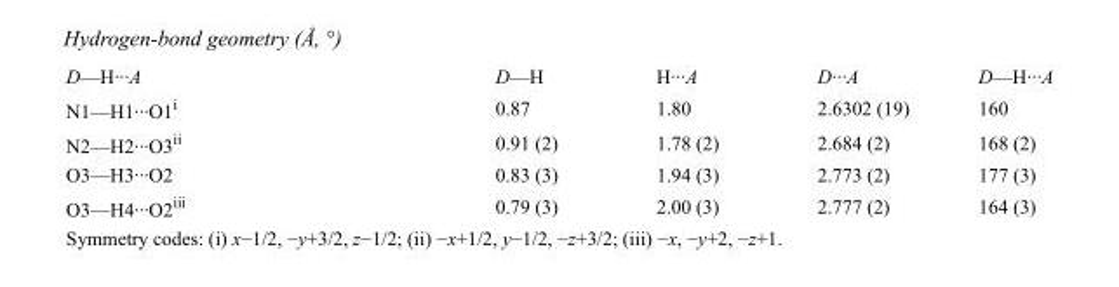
<table><tbody><tr><td>D—H···A</td><td>D—H</td><td>H···A</td><td>D···A</td><td>D—H···A</td></tr><tr><td>N1—H1···O1<sup>i</sup></td><td>0.87</td><td>1.80</td><td>2.6302 (19)</td><td>160</td></tr><tr><td>N2—H2···O3<sup>ii</sup></td><td>0.91 (2)</td><td>1.78 (2)</td><td>2.684 (2)</td><td>168 (2)</td></tr><tr><td>O3—H3···O2</td><td>0.83 (3)</td><td>1.94 (3)</td><td>2.773 (2)</td><td>177 (3)</td></tr><tr><td>O3—H4···O2<sup>iii</sup></td><td>0.79 (3)</td><td>2.00 (3)</td><td>2.777 (2)</td><td>164 (3)</td></tr></tbody></table>